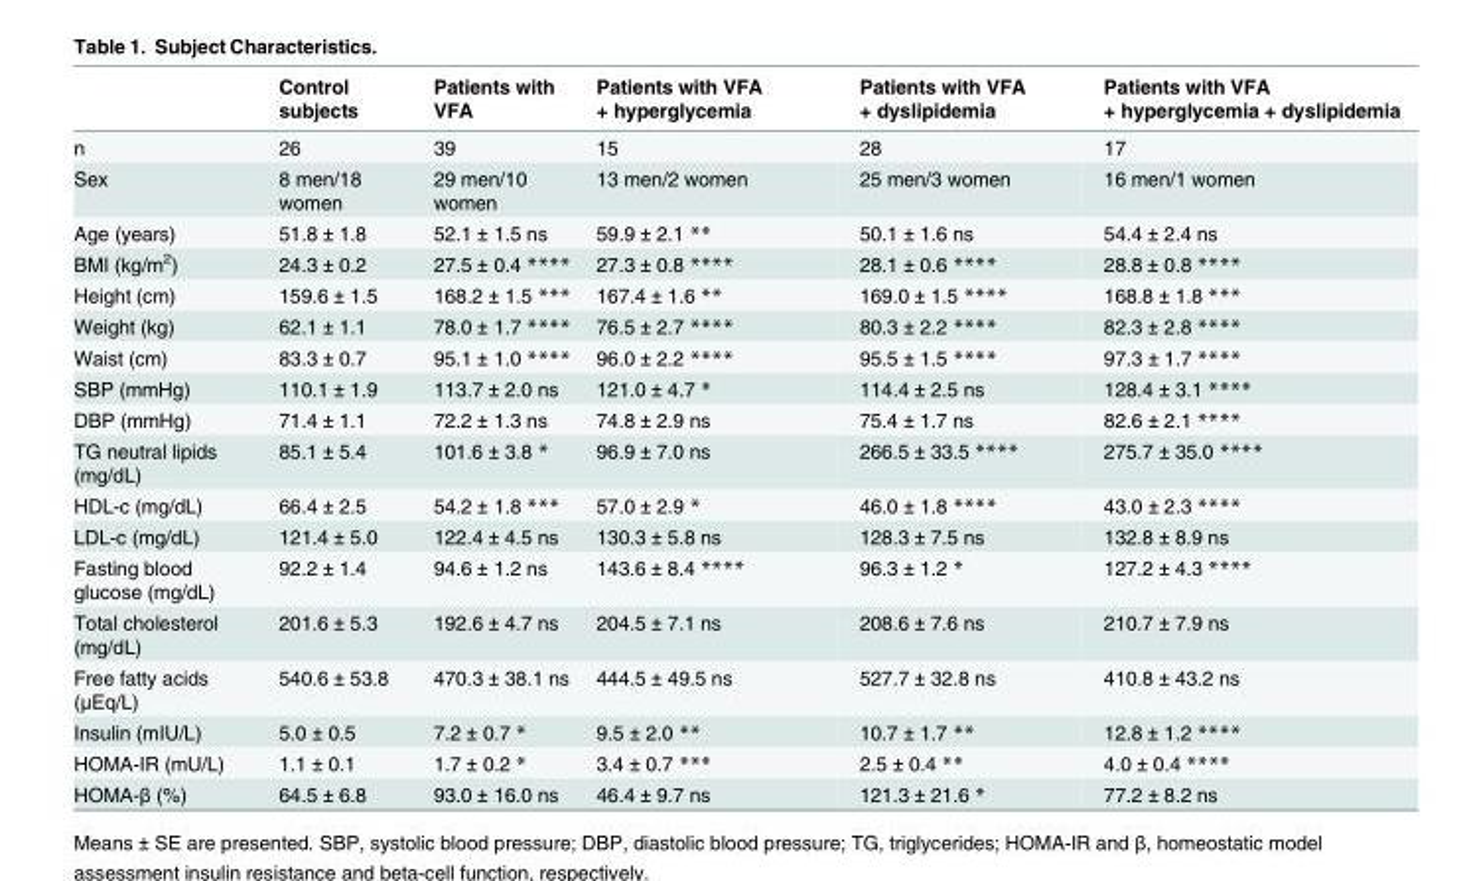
<table><thead><tr><td></td><td>Control subjects</td><td>Patients with VFA</td><td>Patients with VFA + hyperglycemia</td><td>Patients with VFA + dyslipidemia</td><td>Patients with VFA + hyperglycemia + dyslipidemia</td></tr></thead><tbody><tr><td>n</td><td>26</td><td>39</td><td>15</td><td>28</td><td>17</td></tr><tr><td>Sex</td><td>8 men/18 women</td><td>29 men/10 women</td><td>13 men/2 women</td><td>25 men/3 women</td><td>16 men/1 women</td></tr><tr><td>Age (years)</td><td>51.8 ± 1.8</td><td>52.1 ± 1.5 ns</td><td>59.9 ± 2.1 **</td><td>50.1 ± 1.6 ns</td><td>54.4 ± 2.4 ns</td></tr><tr><td>BMI (kg/m<sup>2</sup>)</td><td>24.3 ± 0.2</td><td>27.5 ± 0.4 ****</td><td>27.3 ± 0.8 ****</td><td>28.1 ± 0.6 ****</td><td>28.8 ± 0.8 ****</td></tr><tr><td>Height (cm)</td><td>159.6 ± 1.5</td><td>168.2 ± 1.5 ***</td><td>167.4 ± 1.6 **</td><td>169.0 ± 1.5 ****</td><td>168.8 ± 1.8 ***</td></tr><tr><td>Weight (kg)</td><td>62.1 ± 1.1</td><td>78.0 ± 1.7 ****</td><td>76.5 ± 2.7 ****</td><td>80.3 ± 2.2 ****</td><td>82.3 ± 2.8 ****</td></tr><tr><td>Waist (cm)</td><td>83.3 ± 0.7</td><td>95.1 ± 1.0 ****</td><td>96.0 ± 2.2 ****</td><td>95.5 ± 1.5 ****</td><td>97.3 ± 1.7 ****</td></tr><tr><td>SBP (mmHg)</td><td>110.1 ± 1.9</td><td>113.7 ± 2.0 ns</td><td>121.0 ± 4.7 *</td><td>114.4 ± 2.5 ns</td><td>128.4 ± 3.1 ****</td></tr><tr><td>DBP (mmHg)</td><td>71.4 ± 1.1</td><td>72.2 ± 1.3 ns</td><td>74.8 ± 2.9 ns</td><td>75.4 ± 1.7 ns</td><td>82.6 ± 2.1 ****</td></tr><tr><td>TG neutral lipids (mg/dL)</td><td>85.1 ± 5.4</td><td>101.6 ± 3.8 *</td><td>96.9 ± 7.0 ns</td><td>266.5 ± 33.5 ****</td><td>275.7 ± 35.0 ****</td></tr><tr><td>HDL-c (mg/dL)</td><td>66.4 ± 2.5</td><td>54.2 ± 1.8 ***</td><td>57.0 ± 2.9 *</td><td>46.0 ± 1.8 ****</td><td>43.0 ± 2.3 ****</td></tr><tr><td>LDL-c (mg/dL)</td><td>121.4 ± 5.0</td><td>122.4 ± 4.5 ns</td><td>130.3 ± 5.8 ns</td><td>128.3 ± 7.5 ns</td><td>132.8 ± 8.9 ns</td></tr><tr><td>Fasting blood glucose (mg/dL)</td><td>92.2 ± 1.4</td><td>94.6 ± 1.2 ns</td><td>143.6 ± 8.4 ****</td><td>96.3 ± 1.2 *</td><td>127.2 ± 4.3 ****</td></tr><tr><td>Total cholesterol (mg/dL)</td><td>201.6 ± 5.3</td><td>192.6 ± 4.7 ns</td><td>204.5 ± 7.1 ns</td><td>208.6 ± 7.6 ns</td><td>210.7 ± 7.9 ns</td></tr><tr><td>Free fatty acids (μEq/L)</td><td>540.6 ± 53.8</td><td>470.3 ± 38.1 ns</td><td>444.5 ± 49.5 ns</td><td>527.7 ± 32.8 ns</td><td>410.8 ± 43.2 ns</td></tr><tr><td>Insulin (mIU/L)</td><td>5.0 ± 0.5</td><td>7.2 ± 0.7 *</td><td>9.5 ± 2.0 **</td><td>10.7 ± 1.7 **</td><td>12.8 ± 1.2 ****</td></tr><tr><td>HOMA-IR (mU/L)</td><td>1.1 ± 0.1</td><td>1.7 ± 0.2 *</td><td>3.4 ± 0.7 ***</td><td>2.5 ± 0.4 **</td><td>4.0 ± 0.4 ****</td></tr><tr><td>HOMA-β (%)</td><td>64.5 ± 6.8</td><td>93.0 ± 16.0 ns</td><td>46.4 ± 9.7 ns</td><td>121.3 ± 21.6 *</td><td>77.2 ± 8.2 ns</td></tr></tbody></table>